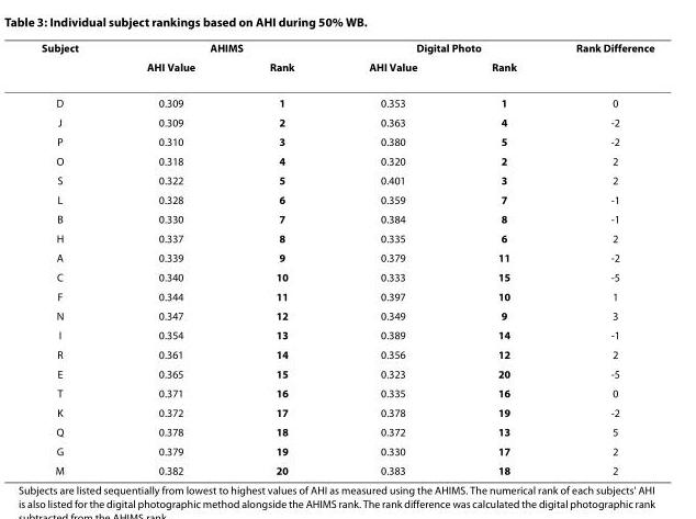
<table><thead><tr><td rowspan="2">Subject</td><td colspan="2">AHIMS</td><td colspan="2">Digital Photo</td><td rowspan="2">Rank Difference</td></tr><tr><td>AHI Value</td><td>Rank</td><td>AHI Value</td><td>Rank</td></tr></thead><tbody><tr><td>D</td><td>0.309</td><td>1</td><td>0.353</td><td>1</td><td>0</td></tr><tr><td>J</td><td>0.309</td><td>2</td><td>0.363</td><td>4</td><td>-2</td></tr><tr><td>P</td><td>0.310</td><td>3</td><td>0.380</td><td>5</td><td>-2</td></tr><tr><td>O</td><td>0.318</td><td>4</td><td>0.320</td><td>2</td><td>2</td></tr><tr><td>S</td><td>0.322</td><td>5</td><td>0.401</td><td>3</td><td>2</td></tr><tr><td>L</td><td>0.328</td><td>6</td><td>0.359</td><td>7</td><td>-1</td></tr><tr><td>B</td><td>0.330</td><td>7</td><td>0.384</td><td>8</td><td>-1</td></tr><tr><td>H</td><td>0.337</td><td>8</td><td>0.335</td><td>6</td><td>2</td></tr><tr><td>A</td><td>0.339</td><td>9</td><td>0.379</td><td>11</td><td>-2</td></tr><tr><td>C</td><td>0.340</td><td>10</td><td>0.333</td><td>15</td><td>-5</td></tr><tr><td>F</td><td>0.344</td><td>11</td><td>0.397</td><td>10</td><td>1</td></tr><tr><td>N</td><td>0.347</td><td>12</td><td>0.349</td><td>9</td><td>3</td></tr><tr><td>I</td><td>0.354</td><td>13</td><td>0.389</td><td>14</td><td>-1</td></tr><tr><td>R</td><td>0.361</td><td>14</td><td>0.356</td><td>12</td><td>2</td></tr><tr><td>E</td><td>0.365</td><td>15</td><td>0.323</td><td>20</td><td>-5</td></tr><tr><td>T</td><td>0.371</td><td>16</td><td>0.335</td><td>16</td><td>0</td></tr><tr><td>K</td><td>0.372</td><td>17</td><td>0.378</td><td>19</td><td>-2</td></tr><tr><td>Q</td><td>0.378</td><td>18</td><td>0.372</td><td>13</td><td>5</td></tr><tr><td>G</td><td>0.379</td><td>19</td><td>0.330</td><td>17</td><td>2</td></tr><tr><td>M</td><td>0.382</td><td>20</td><td>0.383</td><td>18</td><td>2</td></tr></tbody></table>